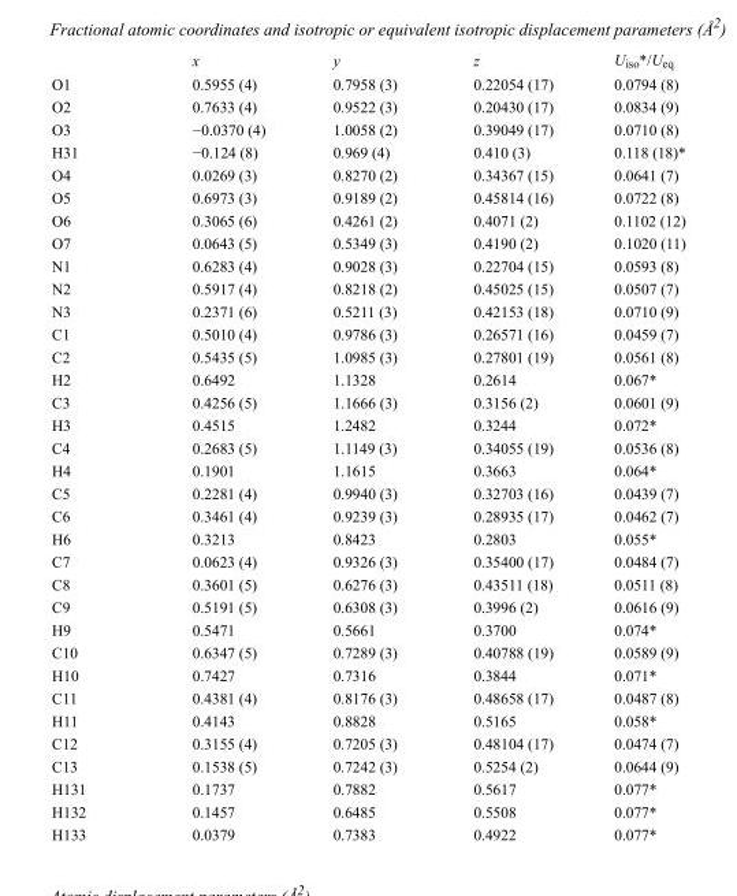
<table><thead><tr><td></td><td>x</td><td>y</td><td>z</td><td>U<sub>iso</sub>*/U<sub>eq</sub></td></tr></thead><tbody><tr><td>O1</td><td>0.5955 (4)</td><td>0.7958 (3)</td><td>0.22054 (17)</td><td>0.0794 (8)</td></tr><tr><td>O2</td><td>0.7633 (4)</td><td>0.9522 (3)</td><td>0.20430 (17)</td><td>0.0834 (9)</td></tr><tr><td>O3</td><td>−0.0370 (4)</td><td>1.0058 (2)</td><td>0.39049 (17)</td><td>0.0710 (8)</td></tr><tr><td>H31</td><td>−0.124 (8)</td><td>0.969 (4)</td><td>0.410 (3)</td><td>0.118 (18)*</td></tr><tr><td>O4</td><td>0.0269 (3)</td><td>0.8270 (2)</td><td>0.34367 (15)</td><td>0.0641 (7)</td></tr><tr><td>O5</td><td>0.6973 (3)</td><td>0.9189 (2)</td><td>0.45814 (16)</td><td>0.0722 (8)</td></tr><tr><td>O6</td><td>0.3065 (6)</td><td>0.4261 (2)</td><td>0.4071 (2)</td><td>0.1102 (12)</td></tr><tr><td>O7</td><td>0.0643 (5)</td><td>0.5349 (3)</td><td>0.4190 (2)</td><td>0.1020 (11)</td></tr><tr><td>N1</td><td>0.6283 (4)</td><td>0.9028 (3)</td><td>0.22704 (15)</td><td>0.0593 (8)</td></tr><tr><td>N2</td><td>0.5917 (4)</td><td>0.8218 (2)</td><td>0.45025 (15)</td><td>0.0507 (7)</td></tr><tr><td>N3</td><td>0.2371 (6)</td><td>0.5211 (3)</td><td>0.42153 (18)</td><td>0.0710 (9)</td></tr><tr><td>C1</td><td>0.5010 (4)</td><td>0.9786 (3)</td><td>0.26571 (16)</td><td>0.0459 (7)</td></tr><tr><td>C2</td><td>0.5435 (5)</td><td>1.0985 (3)</td><td>0.27801 (19)</td><td>0.0561 (8)</td></tr><tr><td>H2</td><td>0.6492</td><td>1.1328</td><td>0.2614</td><td>0.067*</td></tr><tr><td>C3</td><td>0.4256 (5)</td><td>1.1666 (3)</td><td>0.3156 (2)</td><td>0.0601 (9)</td></tr><tr><td>H3</td><td>0.4515</td><td>1.2482</td><td>0.3244</td><td>0.072*</td></tr><tr><td>C4</td><td>0.2683 (5)</td><td>1.1149 (3)</td><td>0.34055 (19)</td><td>0.0536 (8)</td></tr><tr><td>H4</td><td>0.1901</td><td>1.1615</td><td>0.3663</td><td>0.064*</td></tr><tr><td>C5</td><td>0.2281 (4)</td><td>0.9940 (3)</td><td>0.32703 (16)</td><td>0.0439 (7)</td></tr><tr><td>C6</td><td>0.3461 (4)</td><td>0.9239 (3)</td><td>0.28935 (17)</td><td>0.0462 (7)</td></tr><tr><td>H6</td><td>0.3213</td><td>0.8423</td><td>0.2803</td><td>0.055*</td></tr><tr><td>C7</td><td>0.0623 (4)</td><td>0.9326 (3)</td><td>0.35400 (17)</td><td>0.0484 (7)</td></tr><tr><td>C8</td><td>0.3601 (5)</td><td>0.6276 (3)</td><td>0.43511 (18)</td><td>0.0511 (8)</td></tr><tr><td>C9</td><td>0.5191 (5)</td><td>0.6308 (3)</td><td>0.3996 (2)</td><td>0.0616 (9)</td></tr><tr><td>H9</td><td>0.5471</td><td>0.5661</td><td>0.3700</td><td>0.074*</td></tr><tr><td>C10</td><td>0.6347 (5)</td><td>0.7289 (3)</td><td>0.40788 (19)</td><td>0.0589 (9)</td></tr><tr><td>H10</td><td>0.7427</td><td>0.7316</td><td>0.3844</td><td>0.071*</td></tr><tr><td>C11</td><td>0.4381 (4)</td><td>0.8176 (3)</td><td>0.48658 (17)</td><td>0.0487 (8)</td></tr><tr><td>H11</td><td>0.4143</td><td>0.8828</td><td>0.5165</td><td>0.058*</td></tr><tr><td>C12</td><td>0.3155 (4)</td><td>0.7205 (3)</td><td>0.48104 (17)</td><td>0.0474 (7)</td></tr><tr><td>C13</td><td>0.1538 (5)</td><td>0.7242 (3)</td><td>0.5254 (2)</td><td>0.0644 (9)</td></tr><tr><td>H131</td><td>0.1737</td><td>0.7882</td><td>0.5617</td><td>0.077*</td></tr><tr><td>H132</td><td>0.1457</td><td>0.6485</td><td>0.5508</td><td>0.077*</td></tr><tr><td>H133</td><td>0.0379</td><td>0.7383</td><td>0.4922</td><td>0.077*</td></tr></tbody></table>